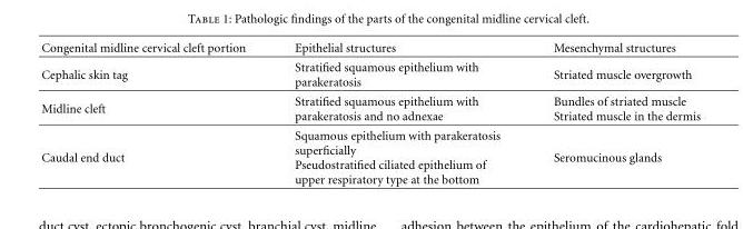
<table><thead><tr><td>Congenital midline cervical cleft portion</td><td>Epithelial structures</td><td>Mesenchymal structures</td></tr></thead><tbody><tr><td>Cephalic skin tag</td><td>Stratified squamous epithelium with parakeratosis</td><td>Striated muscle overgrowth</td></tr><tr><td>Midline cleft</td><td>Stratified squamous epithelium with parakeratosis and no adnexae</td><td>Bundles of striated muscle Striated muscle in the dermis</td></tr><tr><td>Caudal end duct</td><td>Squamous epithelium with parakeratosis superficially Pseudostratified ciliated epithelium of upper respiratory type at the bottom</td><td>Seromucinous glands</td></tr></tbody></table>